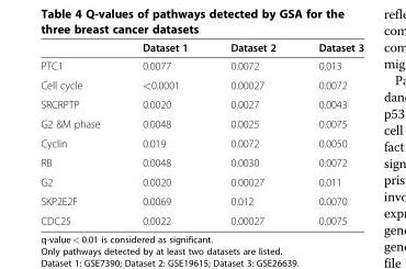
<table><thead><tr><td></td><td>Dataset 1</td><td>Dataset 2</td><td>Dataset 3</td></tr></thead><tbody><tr><td>PTC1</td><td>0.0077</td><td>0.0072</td><td>0.013</td></tr><tr><td>Cell cycle</td><td>&lt;0.0001</td><td>0.00027</td><td>0.0072</td></tr><tr><td>SRCRPTP</td><td>0.0020</td><td>0.0027</td><td>0.0043</td></tr><tr><td>G2 &amp;M phase</td><td>0.0048</td><td>0.0025</td><td>0.0075</td></tr><tr><td>Cyclin</td><td>0.019</td><td>0.0072</td><td>0.0050</td></tr><tr><td>RB</td><td>0.0048</td><td>0.0030</td><td>0.0072</td></tr><tr><td>G2</td><td>0.0020</td><td>0.00027</td><td>0.011</td></tr><tr><td>SKP2E2F</td><td>0.0069</td><td>0.012</td><td>0.0070</td></tr><tr><td>CDC25</td><td>0.0022</td><td>0.00027</td><td>0.0075</td></tr></tbody></table>